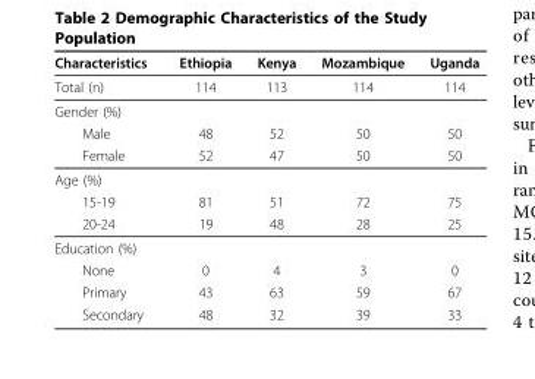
<table><thead><tr><td>Characteristics</td><td>Ethiopia</td><td>Kenya</td><td>Mozambique</td><td>Uganda</td></tr></thead><tbody><tr><td>Total (n)</td><td>114</td><td>113</td><td>114</td><td>114</td></tr><tr><td colspan="5">Gender (%)</td></tr><tr><td>Male</td><td>48</td><td>52</td><td>50</td><td>50</td></tr><tr><td>Female</td><td>52</td><td>47</td><td>50</td><td>50</td></tr><tr><td colspan="5">Age (%)</td></tr><tr><td>15-19</td><td>81</td><td>51</td><td>72</td><td>75</td></tr><tr><td>20-24</td><td>19</td><td>48</td><td>28</td><td>25</td></tr><tr><td colspan="5">Education (%)</td></tr><tr><td>None</td><td>0</td><td>4</td><td>3</td><td>0</td></tr><tr><td>Primary</td><td>43</td><td>63</td><td>59</td><td>67</td></tr><tr><td>Secondary</td><td>48</td><td>32</td><td>39</td><td>33</td></tr></tbody></table>